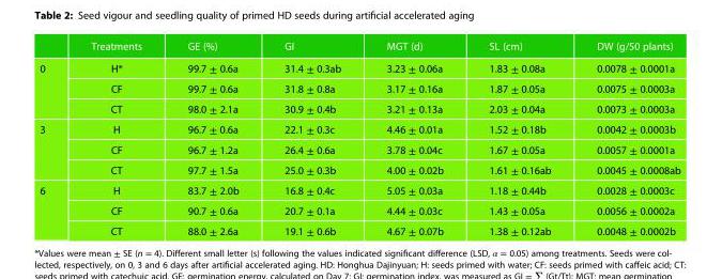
<table><thead><tr><td></td><td>Treatments</td><td>GE (%)</td><td>GI</td><td>MGT (d)</td><td>SL (cm)</td><td>DW (g/50 plants)</td></tr></thead><tbody><tr><td rowspan="3">0</td><td>H*</td><td>99.7 ± 0.6a</td><td>31.4 ± 0.3ab</td><td>3.23 ± 0.06a</td><td>1.83 ± 0.08a</td><td>0.0078 ± 0.0001a</td></tr><tr><td>CF</td><td>99.7 ± 0.6a</td><td>31.8 ± 0.8a</td><td>3.17 ± 0.16a</td><td>1.87 ± 0.05a</td><td>0.0075 ± 0.0003a</td></tr><tr><td>CT</td><td>98.0 ± 2.1a</td><td>30.9 ± 0.4b</td><td>3.21 ± 0.13a</td><td>2.03 ± 0.04a</td><td>0.0073 ± 0.0003a</td></tr><tr><td rowspan="3">3</td><td>H</td><td>96.7 ± 0.6a</td><td>22.1 ± 0.3c</td><td>4.46 ± 0.01a</td><td>1.52 ± 0.18b</td><td>0.0042 ± 0.0003b</td></tr><tr><td>CF</td><td>96.7 ± 1.2a</td><td>26.4 ± 0.6a</td><td>3.78 ± 0.04c</td><td>1.67 ± 0.05a</td><td>0.0057 ± 0.0001a</td></tr><tr><td>CT</td><td>97.7 ± 1.5a</td><td>25.0 ± 0.3b</td><td>4.00 ± 0.02b</td><td>1.61 ± 0.16ab</td><td>0.0045 ± 0.0008ab</td></tr><tr><td rowspan="3">6</td><td>H</td><td>83.7 ± 2.0b</td><td>16.8 ± 0.4c</td><td>5.05 ± 0.03a</td><td>1.18 ± 0.44b</td><td>0.0028 ± 0.0003c</td></tr><tr><td>CF</td><td>90.7 ± 0.6a</td><td>20.7 ± 0.1a</td><td>4.44 ± 0.03c</td><td>1.43 ± 0.05a</td><td>0.0056 ± 0.0002a</td></tr><tr><td>CT</td><td>88.0 ± 2.6a</td><td>19.1 ± 0.6b</td><td>4.67 ± 0.07b</td><td>1.38 ± 0.12ab</td><td>0.0048 ± 0.0002b</td></tr></tbody></table>